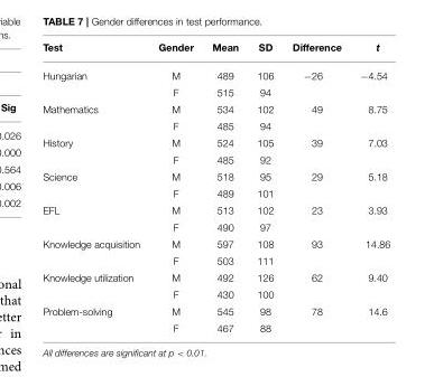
<table><thead><tr><td>Test</td><td>Gender</td><td>Mean</td><td>SD</td><td>Difference</td><td>t</td></tr></thead><tbody><tr><td rowspan="2">Hungarian</td><td>M</td><td>489</td><td>106</td><td>−26</td><td>−4.54</td></tr><tr><td>F</td><td>515</td><td>94</td><td></td><td></td></tr><tr><td rowspan="2">Mathematics</td><td>M</td><td>534</td><td>102</td><td>49</td><td>8.75</td></tr><tr><td>F</td><td>485</td><td>94</td><td></td><td></td></tr><tr><td rowspan="2">History</td><td>M</td><td>524</td><td>105</td><td>39</td><td>7.03</td></tr><tr><td>F</td><td>485</td><td>92</td><td></td><td></td></tr><tr><td rowspan="2">Science</td><td>M</td><td>518</td><td>95</td><td>29</td><td>5.18</td></tr><tr><td>F</td><td>489</td><td>101</td><td></td><td></td></tr><tr><td rowspan="2">EFL</td><td>M</td><td>513</td><td>102</td><td>23</td><td>3.93</td></tr><tr><td>F</td><td>490</td><td>97</td><td></td><td></td></tr><tr><td rowspan="2">Knowledge acquisition</td><td>M</td><td>597</td><td>108</td><td>93</td><td>14.86</td></tr><tr><td>F</td><td>503</td><td>111</td><td></td><td></td></tr><tr><td rowspan="2">Knowledge utilization</td><td>M</td><td>492</td><td>126</td><td>62</td><td>9.40</td></tr><tr><td>F</td><td>430</td><td>100</td><td></td><td></td></tr><tr><td rowspan="2">Problem-solving</td><td>M</td><td>545</td><td>98</td><td>78</td><td>14.6</td></tr><tr><td>F</td><td>467</td><td>88</td><td></td><td></td></tr></tbody></table>